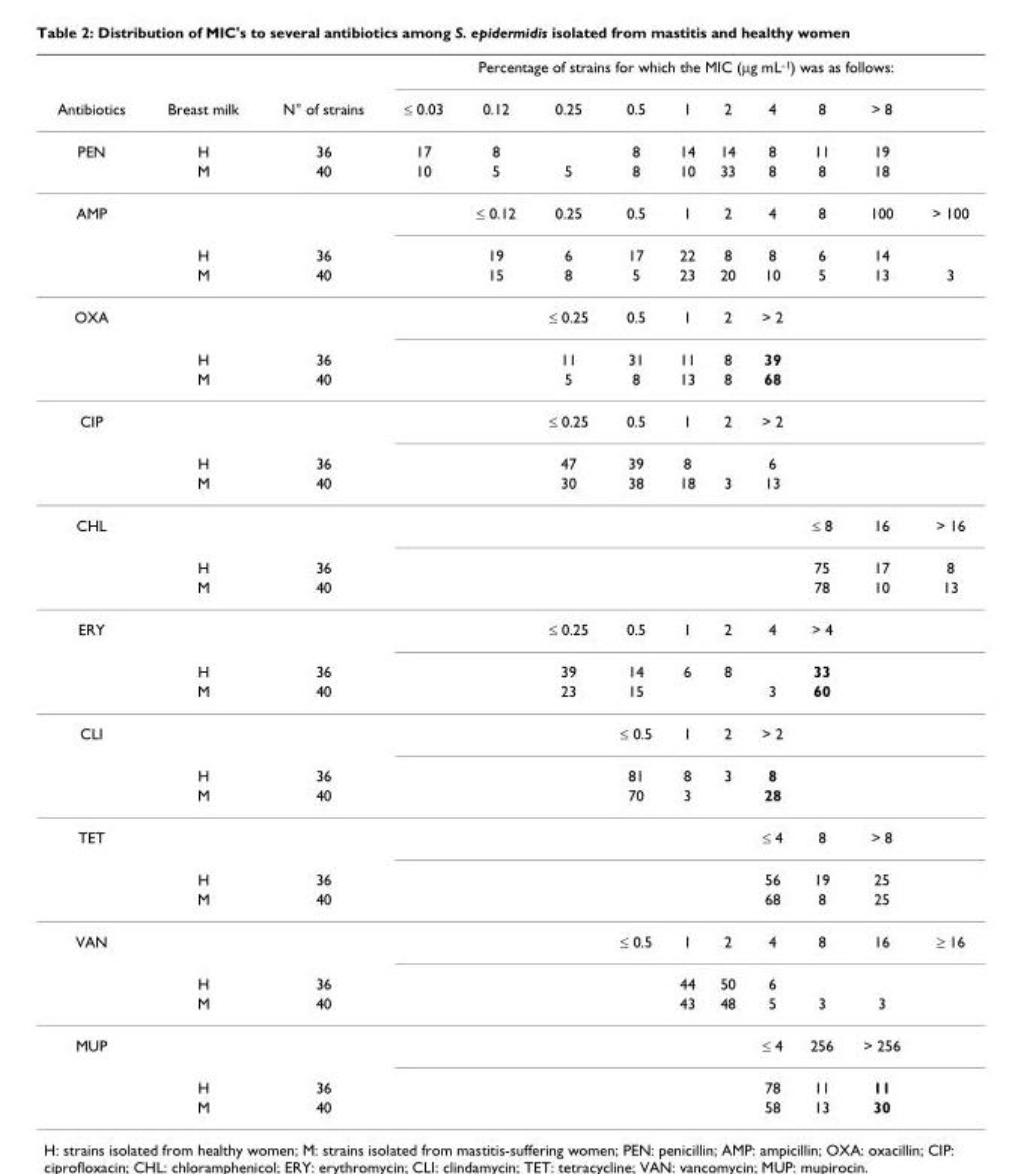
<table><thead><tr><td rowspan="2">Antibiotics</td><td rowspan="2">Breast milk</td><td rowspan="2">N° of strains</td><td colspan="10">Percentage of strains for which the MIC (μg mL<sup>-1</sup>) was as follows:</td></tr><tr><td>≤ 0.03</td><td>0.12</td><td>0.25</td><td>0.5</td><td>1</td><td>2</td><td>4</td><td>8</td><td>&gt; 8</td><td></td></tr></thead><tbody><tr><td rowspan="2">PEN</td><td>H</td><td>36</td><td>17</td><td>8</td><td></td><td>8</td><td>14</td><td>14</td><td>8</td><td>11</td><td>19</td><td></td></tr><tr><td>M</td><td>40</td><td>10</td><td>5</td><td>5</td><td>8</td><td>10</td><td>33</td><td>8</td><td>8</td><td>18</td><td></td></tr><tr><td rowspan="3">AMP</td><td></td><td></td><td></td><td>≤ 0.12</td><td>0.25</td><td>0.5</td><td>1</td><td>2</td><td>4</td><td>8</td><td>100</td><td>&gt; 100</td></tr><tr><td>H</td><td>36</td><td></td><td>19</td><td>6</td><td>17</td><td>22</td><td>8</td><td>8</td><td>6</td><td>14</td><td></td></tr><tr><td>M</td><td>40</td><td></td><td>15</td><td>8</td><td>5</td><td>23</td><td>20</td><td>10</td><td>5</td><td>13</td><td>3</td></tr><tr><td rowspan="3">OXA</td><td></td><td></td><td></td><td></td><td>≤ 0.25</td><td>0.5</td><td>1</td><td>2</td><td>&gt; 2</td><td></td><td></td><td></td></tr><tr><td>H</td><td>36</td><td></td><td></td><td>11</td><td>31</td><td>11</td><td>8</td><td>39</td><td></td><td></td><td></td></tr><tr><td>M</td><td>40</td><td></td><td></td><td>5</td><td>8</td><td>13</td><td>8</td><td>68</td><td></td><td></td><td></td></tr><tr><td rowspan="3">CIP</td><td></td><td></td><td></td><td></td><td>≤ 0.25</td><td>0.5</td><td>1</td><td>2</td><td>&gt; 2</td><td></td><td></td><td></td></tr><tr><td>H</td><td>36</td><td></td><td></td><td>47</td><td>39</td><td>8</td><td></td><td>6</td><td></td><td></td><td></td></tr><tr><td>M</td><td>40</td><td></td><td></td><td>30</td><td>38</td><td>18</td><td>3</td><td>13</td><td></td><td></td><td></td></tr><tr><td rowspan="3">CHL</td><td></td><td></td><td></td><td></td><td></td><td></td><td></td><td></td><td></td><td>≤ 8</td><td>16</td><td>&gt; 16</td></tr><tr><td>H</td><td>36</td><td></td><td></td><td></td><td></td><td></td><td></td><td></td><td>75</td><td>17</td><td>8</td></tr><tr><td>M</td><td>40</td><td></td><td></td><td></td><td></td><td></td><td></td><td></td><td>78</td><td>10</td><td>13</td></tr><tr><td rowspan="3">ERY</td><td></td><td></td><td></td><td></td><td>≤ 0.25</td><td>0.5</td><td>1</td><td>2</td><td>4</td><td>&gt; 4</td><td></td><td></td></tr><tr><td>H</td><td>36</td><td></td><td></td><td>39</td><td>14</td><td>6</td><td>8</td><td></td><td>33</td><td></td><td></td></tr><tr><td>M</td><td>40</td><td></td><td></td><td>23</td><td>15</td><td></td><td></td><td>3</td><td>60</td><td></td><td></td></tr><tr><td rowspan="3">CLI</td><td></td><td></td><td></td><td></td><td></td><td>≤ 0.5</td><td>1</td><td>2</td><td>&gt; 2</td><td></td><td></td><td></td></tr><tr><td>H</td><td>36</td><td></td><td></td><td></td><td>81</td><td>8</td><td>3</td><td>8</td><td></td><td></td><td></td></tr><tr><td>M</td><td>40</td><td></td><td></td><td></td><td>70</td><td>3</td><td></td><td>28</td><td></td><td></td><td></td></tr><tr><td rowspan="3">TET</td><td></td><td></td><td></td><td></td><td></td><td></td><td></td><td></td><td>≤ 4</td><td>8</td><td>&gt; 8</td><td></td></tr><tr><td>H</td><td>36</td><td></td><td></td><td></td><td></td><td></td><td></td><td>56</td><td>19</td><td>25</td><td></td></tr><tr><td>M</td><td>40</td><td></td><td></td><td></td><td></td><td></td><td></td><td>68</td><td>8</td><td>25</td><td></td></tr><tr><td rowspan="3">VAN</td><td></td><td></td><td></td><td></td><td></td><td>≤ 0.5</td><td>1</td><td>2</td><td>4</td><td>8</td><td>16</td><td>≥ 16</td></tr><tr><td>H</td><td>36</td><td></td><td></td><td></td><td></td><td>44</td><td>50</td><td>6</td><td></td><td></td><td></td></tr><tr><td>M</td><td>40</td><td></td><td></td><td></td><td></td><td>43</td><td>48</td><td>5</td><td>3</td><td>3</td><td></td></tr><tr><td rowspan="3">MUP</td><td></td><td></td><td></td><td></td><td></td><td></td><td></td><td></td><td>≤ 4</td><td>256</td><td>&gt; 256</td><td></td></tr><tr><td>H</td><td>36</td><td></td><td></td><td></td><td></td><td></td><td></td><td>78</td><td>11</td><td>11</td><td></td></tr><tr><td>M</td><td>40</td><td></td><td></td><td></td><td></td><td></td><td></td><td>58</td><td>13</td><td>30</td><td></td></tr></tbody></table>